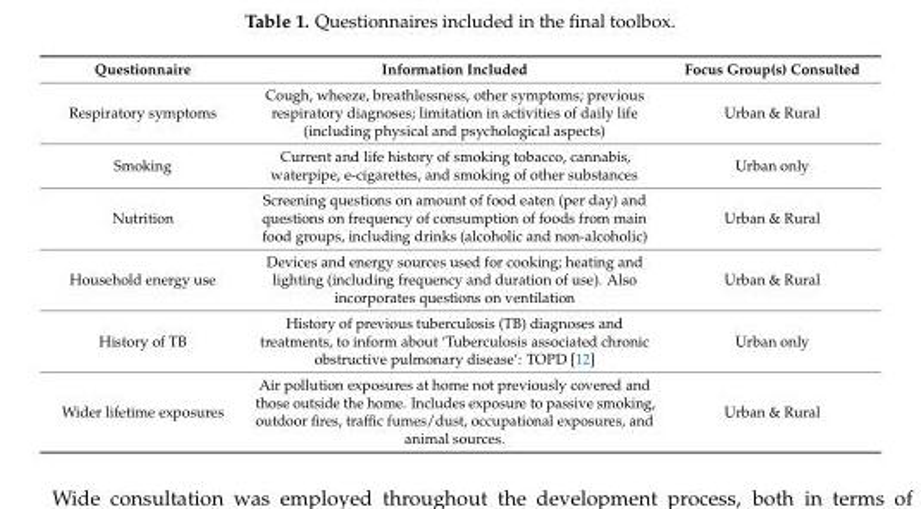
<table><thead><tr><td>Questionnaire</td><td>Information Included</td><td>Focus Group(s) Consulted</td></tr></thead><tbody><tr><td>Respiratory symptoms</td><td>Cough, wheeze, breathlessness, other symptoms; previous respiratory diagnoses; limitation in activities of daily life (including physical and psychological aspects)</td><td>Urban &amp; Rural</td></tr><tr><td>Smoking</td><td>Current and life history of smoking tobacco, cannabis, waterpipe, e-cigarettes, and smoking of other substances</td><td>Urban only</td></tr><tr><td>Nutrition</td><td>Screening questions on amount of food eaten (per day) and questions on frequency of consumption of foods from main food groups, including drinks (alcoholic and non-alcoholic)</td><td>Urban &amp; Rural</td></tr><tr><td>Household energy use</td><td>Devices and energy sources used for cooking; heating and lighting (including frequency and duration of use). Also incorporates questions on ventilation</td><td>Urban &amp; Rural</td></tr><tr><td>History of TB</td><td>History of previous tuberculosis (TB) diagnoses and treatments, to inform about ‘Tuberculosis associated chronic obstructive pulmonary disease’: TOPD [12]</td><td>Urban only</td></tr><tr><td>Wider lifetime exposures</td><td>Air pollution exposures at home not previously covered and those outside the home. Includes exposure to passive smoking, outdoor fires, traffic fumes/dust, occupational exposures, and animal sources.</td><td>Urban &amp; Rural</td></tr></tbody></table>